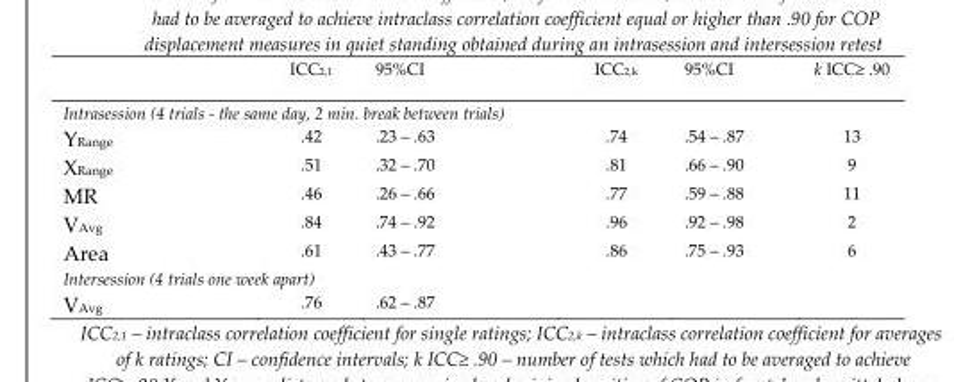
<table><thead><tr><td></td><td>ICC<sub>2,1</sub></td><td>95%CI</td><td>ICC<sub>2,k</sub></td><td>95%CI</td><td>k ICC≥ .90</td></tr></thead><tbody><tr><td colspan="6">Intrasession (4 trials - the same day, 2 min. break between trials)</td></tr><tr><td>Y<sub>Range</sub></td><td>.42</td><td>.23 – .63</td><td>.74</td><td>.54 – .87</td><td>13</td></tr><tr><td>X<sub>Range</sub></td><td>.51</td><td>.32 – .70</td><td>.81</td><td>.66 – .90</td><td>9</td></tr><tr><td>MR</td><td>.46</td><td>.26 – .66</td><td>.77</td><td>.59 – .88</td><td>11</td></tr><tr><td>V<sub>Avg</sub></td><td>.84</td><td>.74 – .92</td><td>.96</td><td>.92 – .98</td><td>2</td></tr><tr><td>Area</td><td>.61</td><td>.43 – .77</td><td>.86</td><td>.75 – .93</td><td>6</td></tr><tr><td colspan="6">Intersession (4 trials one week apart)</td></tr><tr><td>V<sub>Avg</sub></td><td>.76</td><td>.62 – .87</td><td></td><td></td><td></td></tr></tbody></table>